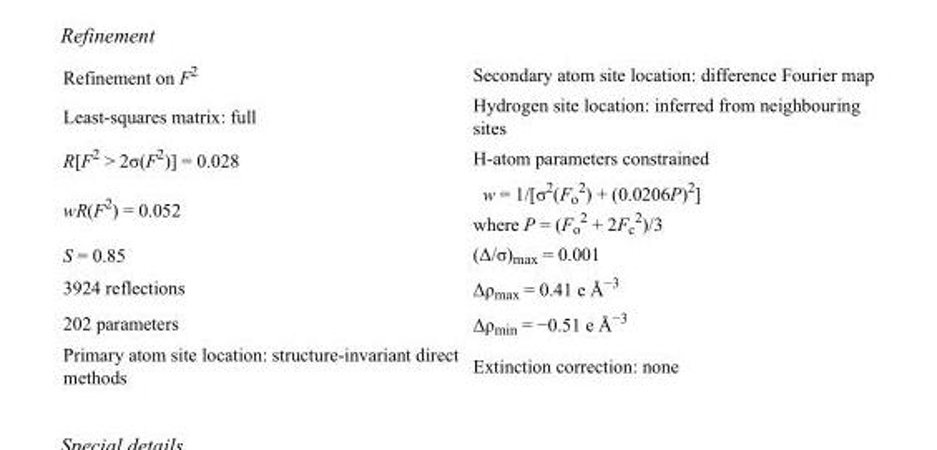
<table><tbody><tr><td>Refinement on F<sup>2</sup></td><td>Secondary atom site location: difference Fourier map</td></tr><tr><td>Least-squares matrix: full</td><td>Hydrogen site location: inferred from neighbouring sites</td></tr><tr><td>R[F<sup>2</sup> &gt; 2σ(F<sup>2</sup>)] = 0.028</td><td>H-atom parameters constrained</td></tr><tr><td>wR(F<sup>2</sup>) = 0.052</td><td>w = 1/[σ<sup>2</sup>(F<sub>o</sub> <sup>2</sup>) + (0.0206P)<sup>2</sup>] where P = (F<sub>o</sub> <sup>2</sup> + 2F<sub>c</sub> <sup>2</sup>)/3</td></tr><tr><td>S = 0.85</td><td>(Δ/σ)<sub>max</sub> = 0.001</td></tr><tr><td>3924 reflections</td><td>Δρ<sub>max</sub> = 0.41 e Å<sup>−3</sup></td></tr><tr><td>202 parameters</td><td>Δρ<sub>min</sub> = −0.51 e Å<sup>−3</sup></td></tr><tr><td>Primary atom site location: structure-invariant direct methods</td><td>Extinction correction: none</td></tr></tbody></table>